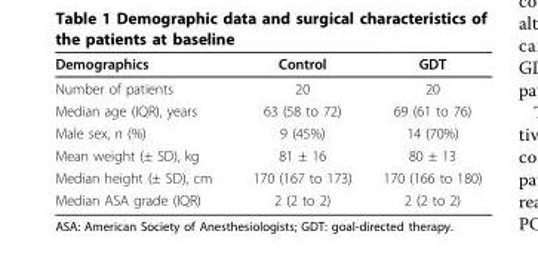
<table><thead><tr><td>Demographics</td><td>Control</td><td>GDT</td></tr></thead><tbody><tr><td>Number of patients</td><td>20</td><td>20</td></tr><tr><td>Median age (IQR), years</td><td>63 (58 to 72)</td><td>69 (61 to 76)</td></tr><tr><td>Male sex, n (%)</td><td>9 (45%)</td><td>14 (70%)</td></tr><tr><td>Mean weight (± SD), kg</td><td>81 ± 16</td><td>80 ± 13</td></tr><tr><td>Median height (± SD), cm</td><td>170 (167 to 173)</td><td>170 (166 to 180)</td></tr><tr><td>Median ASA grade (IQR)</td><td>2 (2 to 2)</td><td>2 (2 to 2)</td></tr></tbody></table>